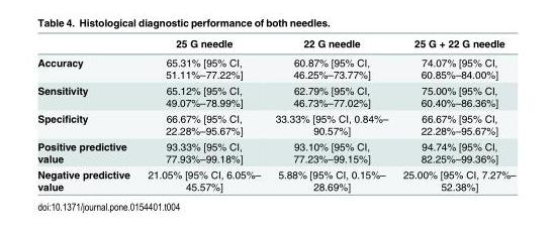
<table><thead><tr><td></td><td>25 G needle</td><td>22 G needle</td><td>25 G + 22 G needle</td></tr></thead><tbody><tr><td>Accuracy</td><td>65.31% [95% CI, 51.11%–77.22%]</td><td>60.87% [95% CI, 46.25%–73.77%]</td><td>74.07% [95% CI, 60.85%–84.00%]</td></tr><tr><td>Sensitivity</td><td>65.12% [95% CI, 49.07%–78.99%]</td><td>62.79% [95% CI, 46.73%–77.02%]</td><td>75.00% [95% CI, 60.40%–86.36%]</td></tr><tr><td>Specificity</td><td>66.67% [95% CI, 22.28%–95.67%]</td><td>33.33% [95% CI, 0.84%– 90.57%]</td><td>66.67% [95% CI, 22.28%–95.67%]</td></tr><tr><td>Positive predictive value</td><td>93.33% [95% CI, 77.93%–99.18%]</td><td>93.10% [95% CI, 77.23%–99.15%]</td><td>94.74% [95% CI, 82.25%–99.36%]</td></tr><tr><td>Negative predictive value</td><td>21.05% [95% CI, 6.05%– 45.57%]</td><td>5.88% [95% CI, 0.15%– 28.69%]</td><td>25.00% [95% CI, 7.27%– 52.38%]</td></tr></tbody></table>